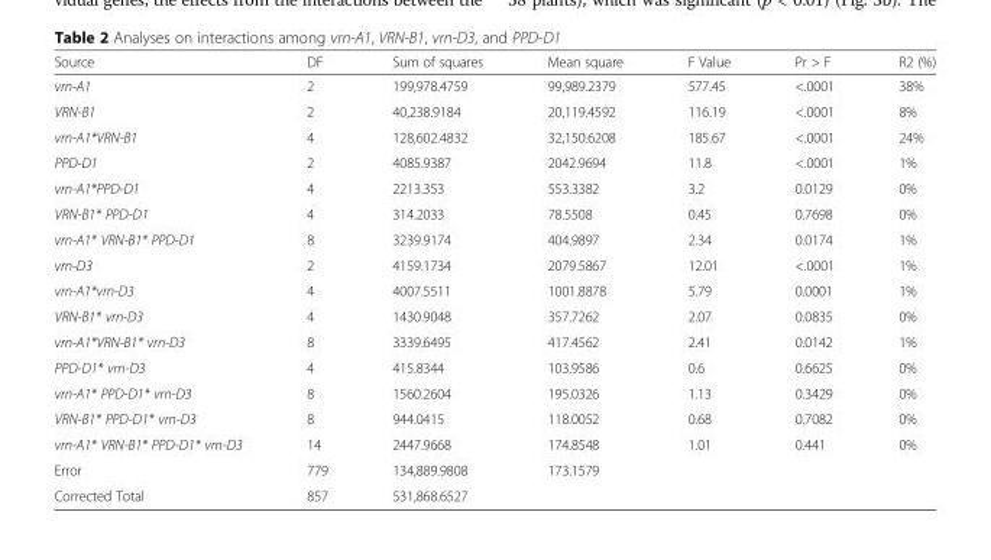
<table><thead><tr><td>Source</td><td>DF</td><td>Sum of squares</td><td>Mean square</td><td>F Value</td><td>Pr &gt; F</td><td>R2 (%)</td></tr></thead><tbody><tr><td>vrn-A1</td><td>2</td><td>199,978.4759</td><td>99,989.2379</td><td>577.45</td><td>&lt;.0001</td><td>38%</td></tr><tr><td>VRN-B1</td><td>2</td><td>40,238.9184</td><td>20,119.4592</td><td>116.19</td><td>&lt;.0001</td><td>8%</td></tr><tr><td>vrn-A1*VRN-B1</td><td>4</td><td>128,602.4832</td><td>32,150.6208</td><td>185.67</td><td>&lt;.0001</td><td>24%</td></tr><tr><td>PPD-D1</td><td>2</td><td>4085.9387</td><td>2042.9694</td><td>11.8</td><td>&lt;.0001</td><td>1%</td></tr><tr><td>vrn-A1*PPD-D1</td><td>4</td><td>2213.353</td><td>553.3382</td><td>3.2</td><td>0.0129</td><td>0%</td></tr><tr><td>VRN-B1* PPD-D1</td><td>4</td><td>314.2033</td><td>78.5508</td><td>0.45</td><td>0.7698</td><td>0%</td></tr><tr><td>vrn-A1* VRN-B1* PPD-D1</td><td>8</td><td>3239.9174</td><td>404.9897</td><td>2.34</td><td>0.0174</td><td>1%</td></tr><tr><td>vrn-D3</td><td>2</td><td>4159.1734</td><td>2079.5867</td><td>12.01</td><td>&lt;.0001</td><td>1%</td></tr><tr><td>vrn-A1*vrn-D3</td><td>4</td><td>4007.5511</td><td>1001.8878</td><td>5.79</td><td>0.0001</td><td>1%</td></tr><tr><td>VRN-B1* vrn-D3</td><td>4</td><td>1430.9048</td><td>357.7262</td><td>2.07</td><td>0.0835</td><td>0%</td></tr><tr><td>vrn-A1*VRN-B1* vrn-D3</td><td>8</td><td>3339.6495</td><td>417.4562</td><td>2.41</td><td>0.0142</td><td>1%</td></tr><tr><td>PPD-D1* vrn-D3</td><td>4</td><td>415.8344</td><td>103.9586</td><td>0.6</td><td>0.6625</td><td>0%</td></tr><tr><td>vrn-A1* PPD-D1* vrn-D3</td><td>8</td><td>1560.2604</td><td>195.0326</td><td>1.13</td><td>0.3429</td><td>0%</td></tr><tr><td>VRN-B1* PPD-D1* vrn-D3</td><td>8</td><td>944.0415</td><td>118.0052</td><td>0.68</td><td>0.7082</td><td>0%</td></tr><tr><td>vrn-A1* VRN-B1* PPD-D1* vrn-D3</td><td>14</td><td>2447.9668</td><td>174.8548</td><td>1.01</td><td>0.441</td><td>0%</td></tr><tr><td>Error</td><td>779</td><td>134,889.9808</td><td>173.1579</td><td></td><td></td><td></td></tr><tr><td>Corrected Total</td><td>857</td><td>531,868.6527</td><td></td><td></td><td></td><td></td></tr></tbody></table>